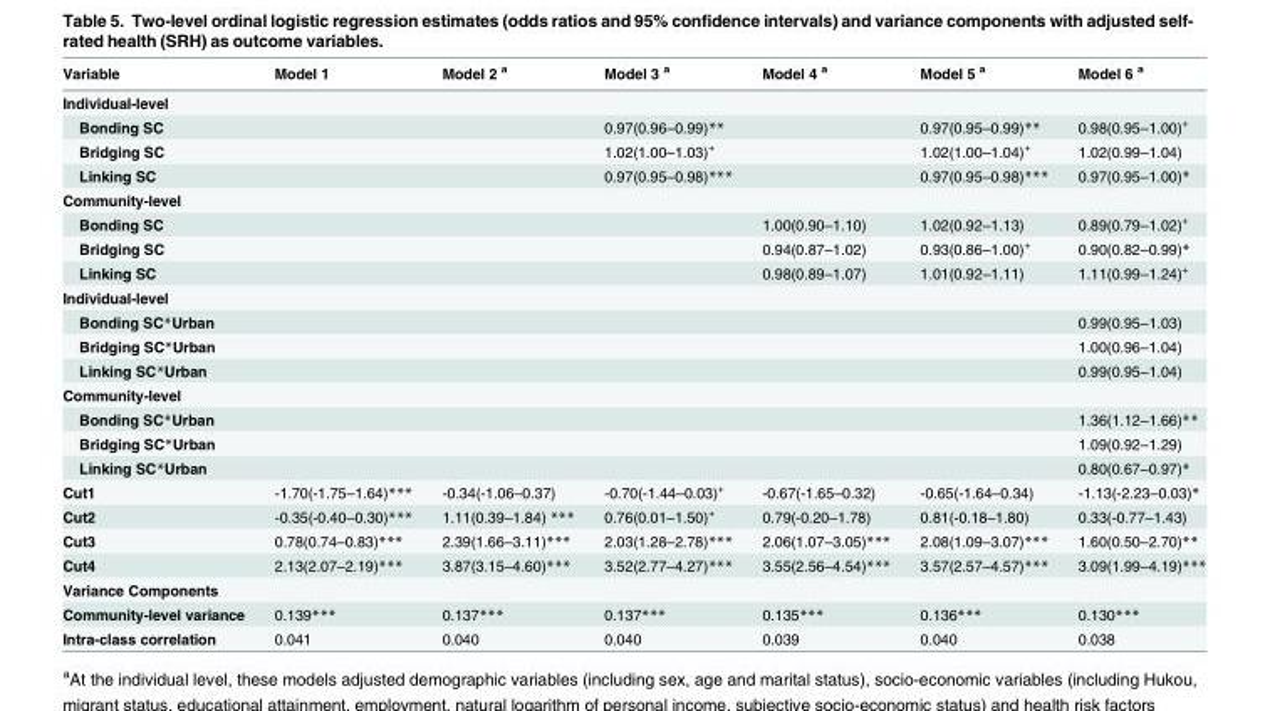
<table><thead><tr><td>Variable</td><td>Model 1</td><td>Model 2 <sup>a</sup></td><td>Model 3 <sup>a</sup></td><td>Model 4 <sup>a</sup></td><td>Model 5 <sup>a</sup></td><td>Model 6 <sup>a</sup></td></tr></thead><tbody><tr><td colspan="7">Individual-level</td></tr><tr><td>Bonding SC</td><td></td><td></td><td>0.97(0.96–0.99)**</td><td></td><td>0.97(0.95–0.99)**</td><td>0.98(0.95–1.00)<sup>+</sup></td></tr><tr><td>Bridging SC</td><td></td><td></td><td>1.02(1.00–1.03)<sup>+</sup></td><td></td><td>1.02(1.00–1.04)<sup>+</sup></td><td>1.02(0.99–1.04)</td></tr><tr><td>Linking SC</td><td></td><td></td><td>0.97(0.95–0.98)***</td><td></td><td>0.97(0.95–0.98)***</td><td>0.97(0.95–1.00)*</td></tr><tr><td colspan="7">Community-level</td></tr><tr><td>Bonding SC</td><td></td><td></td><td></td><td>1.00(0.90–1.10)</td><td>1.02(0.92–1.13)</td><td>0.89(0.79–1.02)<sup>+</sup></td></tr><tr><td>Bridging SC</td><td></td><td></td><td></td><td>0.94(0.87–1.02)</td><td>0.93(0.86–1.00)<sup>+</sup></td><td>0.90(0.82–0.99)*</td></tr><tr><td>Linking SC</td><td></td><td></td><td></td><td>0.98(0.89–1.07)</td><td>1.01(0.92–1.11)</td><td>1.11(0.99–1.24)<sup>+</sup></td></tr><tr><td colspan="7">Individual-level</td></tr><tr><td>Bonding SC*Urban</td><td></td><td></td><td></td><td></td><td></td><td>0.99(0.95–1.03)</td></tr><tr><td>Bridging SC*Urban</td><td></td><td></td><td></td><td></td><td></td><td>1.00(0.96–1.04)</td></tr><tr><td>Linking SC*Urban</td><td></td><td></td><td></td><td></td><td></td><td>0.99(0.95–1.04)</td></tr><tr><td colspan="7">Community-level</td></tr><tr><td>Bonding SC*Urban</td><td></td><td></td><td></td><td></td><td></td><td>1.36(1.12–1.66)**</td></tr><tr><td>Bridging SC*Urban</td><td></td><td></td><td></td><td></td><td></td><td>1.09(0.92–1.29)</td></tr><tr><td>Linking SC*Urban</td><td></td><td></td><td></td><td></td><td></td><td>0.80(0.67–0.97)*</td></tr><tr><td>Cut1</td><td>-1.70(-1.75–1.64)***</td><td>-0.34(-1.06–0.37)</td><td>-0.70(-1.44–0.03)<sup>+</sup></td><td>-0.67(-1.65–0.32)</td><td>-0.65(-1.64–0.34)</td><td>-1.13(-2.23–0.03)*</td></tr><tr><td>Cut2</td><td>-0.35(-0.40–0.30)***</td><td>1.11(0.39–1.84) ***</td><td>0.76(0.01–1.50)<sup>+</sup></td><td>0.79(-0.20–1.78)</td><td>0.81(-0.18–1.80)</td><td>0.33(-0.77–1.43)</td></tr><tr><td>Cut3</td><td>0.78(0.74–0.83)***</td><td>2.39(1.66–3.11)***</td><td>2.03(1.28–2.78)***</td><td>2.06(1.07–3.05)***</td><td>2.08(1.09–3.07)***</td><td>1.60(0.50–2.70)**</td></tr><tr><td>Cut4</td><td>2.13(2.07–2.19)***</td><td>3.87(3.15–4.60)***</td><td>3.52(2.77–4.27)***</td><td>3.55(2.56–4.54)***</td><td>3.57(2.57–4.57)***</td><td>3.09(1.99–4.19)***</td></tr><tr><td colspan="7">Variance Components</td></tr><tr><td>Community-level variance</td><td>0.139***</td><td>0.137***</td><td>0.137***</td><td>0.135***</td><td>0.136***</td><td>0.130***</td></tr><tr><td>Intra-class correlation</td><td>0.041</td><td>0.040</td><td>0.040</td><td>0.039</td><td>0.040</td><td>0.038</td></tr></tbody></table>